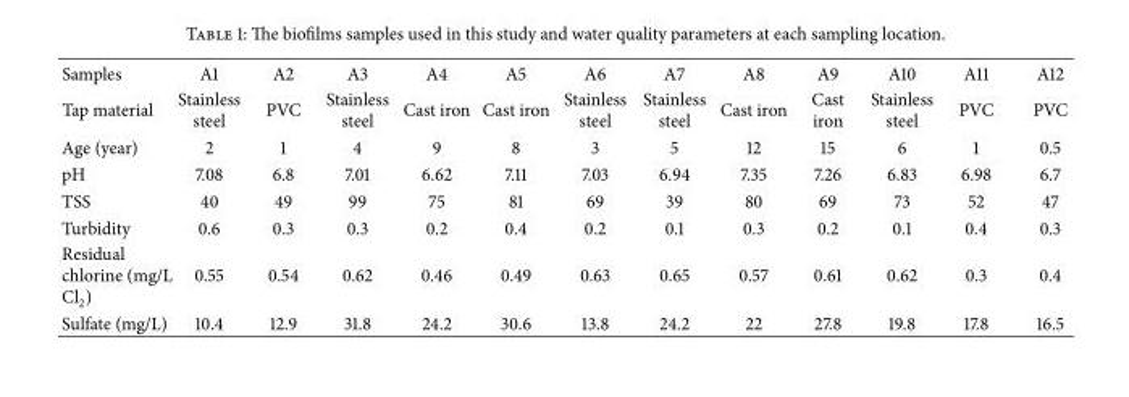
<table><tbody><tr><td>Samples</td><td>A1</td><td>A2</td><td>A3</td><td>A4</td><td>A5</td><td>A6</td><td>A7</td><td>A8</td><td>A9</td><td>A10</td><td>A11</td><td>A12</td></tr><tr><td>Tap material</td><td>Stainless steel</td><td>PVC</td><td>Stainless steel</td><td>Cast iron</td><td>Cast iron</td><td>Stainless steel</td><td>Stainless steel</td><td>Cast iron</td><td>Cast iron</td><td>Stainless steel</td><td>PVC</td><td>PVC</td></tr><tr><td>Age (year)</td><td>2</td><td>1</td><td>4</td><td>9</td><td>8</td><td>3</td><td>5</td><td>12</td><td>15</td><td>6</td><td>1</td><td>0.5</td></tr><tr><td>pH</td><td>7.08</td><td>6.8</td><td>7.01</td><td>6.62</td><td>7.11</td><td>7.03</td><td>6.94</td><td>7.35</td><td>7.26</td><td>6.83</td><td>6.98</td><td>6.7</td></tr><tr><td>TSS</td><td>40</td><td>49</td><td>99</td><td>75</td><td>81</td><td>69</td><td>39</td><td>80</td><td>69</td><td>73</td><td>52</td><td>47</td></tr><tr><td>Turbidity</td><td>0.6</td><td>0.3</td><td>0.3</td><td>0.2</td><td>0.4</td><td>0.2</td><td>0.1</td><td>0.3</td><td>0.2</td><td>0.1</td><td>0.4</td><td>0.3</td></tr><tr><td>Residual chlorine (mg/L Cl<sub>2</sub>)</td><td>0.55</td><td>0.54</td><td>0.62</td><td>0.46</td><td>0.49</td><td>0.63</td><td>0.65</td><td>0.57</td><td>0.61</td><td>0.62</td><td>0.3</td><td>0.4</td></tr><tr><td>Sulfate (mg/L)</td><td>10.4</td><td>12.9</td><td>31.8</td><td>24.2</td><td>30.6</td><td>13.8</td><td>24.2</td><td>22</td><td>27.8</td><td>19.8</td><td>17.8</td><td>16.5</td></tr></tbody></table>